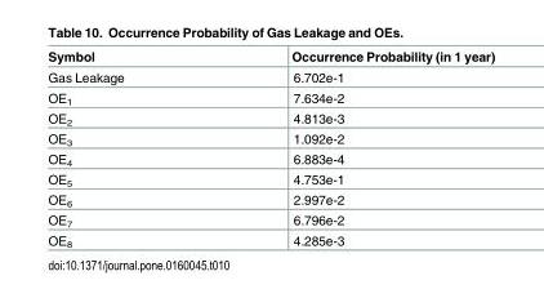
<table><thead><tr><td>Symbol</td><td>Occurrence Probability (in 1 year)</td></tr></thead><tbody><tr><td>Gas Leakage</td><td>6.702e-1</td></tr><tr><td>OE<sub>1</sub></td><td>7.634e-2</td></tr><tr><td>OE<sub>2</sub></td><td>4.813e-3</td></tr><tr><td>OE<sub>3</sub></td><td>1.092e-2</td></tr><tr><td>OE<sub>4</sub></td><td>6.883e-4</td></tr><tr><td>OE<sub>5</sub></td><td>4.753e-1</td></tr><tr><td>OE<sub>6</sub></td><td>2.997e-2</td></tr><tr><td>OE<sub>7</sub></td><td>6.796e-2</td></tr><tr><td>OE<sub>8</sub></td><td>4.285e-3</td></tr></tbody></table>